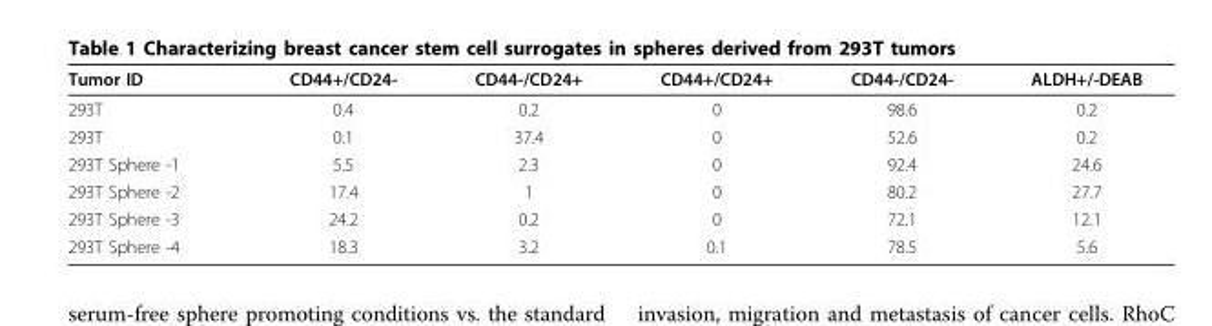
<table><thead><tr><td>Tumor ID</td><td>CD44+/CD24-</td><td>CD44-/CD24+</td><td>CD44+/CD24+</td><td>CD44-/CD24-</td><td>ALDH+/-DEAB</td></tr></thead><tbody><tr><td>293T</td><td>0.4</td><td>0.2</td><td>0</td><td>98.6</td><td>0.2</td></tr><tr><td>293T</td><td>0.1</td><td>37.4</td><td>0</td><td>52.6</td><td>0.2</td></tr><tr><td>293T Sphere -1</td><td>5.5</td><td>2.3</td><td>0</td><td>92.4</td><td>24.6</td></tr><tr><td>293T Sphere -2</td><td>17.4</td><td>1</td><td>0</td><td>80.2</td><td>27.7</td></tr><tr><td>293T Sphere -3</td><td>24.2</td><td>0.2</td><td>0</td><td>72.1</td><td>12.1</td></tr><tr><td>293T Sphere -4</td><td>18.3</td><td>3.2</td><td>0.1</td><td>78.5</td><td>5.6</td></tr></tbody></table>